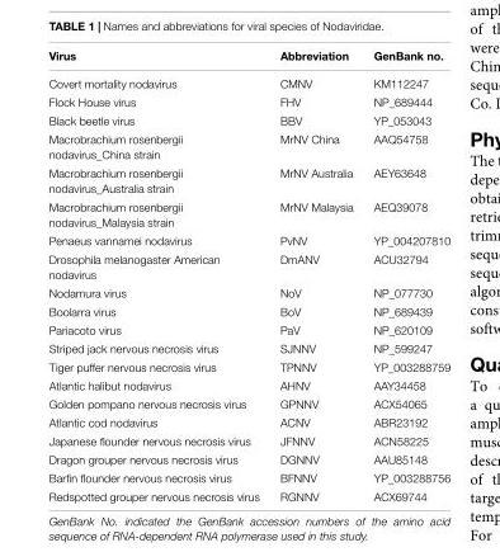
<table><thead><tr><td>Virus</td><td>Abbreviation</td><td>GenBank no.</td></tr></thead><tbody><tr><td>Covert mortality nodavirus</td><td>CMNV</td><td>KM112247</td></tr><tr><td>Flock House virus</td><td>FHV</td><td>NP_689444</td></tr><tr><td>Black beetle virus</td><td>BBV</td><td>YP_053043</td></tr><tr><td>Macrobrachium rosenbergii nodavirus_China strain</td><td>MrNV China</td><td>AAQ54758</td></tr><tr><td>Macrobrachium rosenbergii nodavirus_Australia strain</td><td>MrNV Australia</td><td>AEY63648</td></tr><tr><td>Macrobrachium rosenbergii nodavirus_Malaysia strain</td><td>MrNV Malaysia</td><td>AEQ39078</td></tr><tr><td>Penaeus vannamei nodavirus</td><td>PvNV</td><td>YP_004207810</td></tr><tr><td>Drosophila melanogaster American nodavirus</td><td>DmANV</td><td>ACU32794</td></tr><tr><td>Nodamura virus</td><td>NoV</td><td>NP_077730</td></tr><tr><td>Boolarra virus</td><td>BoV</td><td>NP_689439</td></tr><tr><td>Pariacoto virus</td><td>PaV</td><td>NP_620109</td></tr><tr><td>Striped jack nervous necrosis virus</td><td>SJNNV</td><td>NP_599247</td></tr><tr><td>Tiger puffer nervous necrosis virus</td><td>TPNNV</td><td>YP_003288759</td></tr><tr><td>Atlantic halibut nodavirus</td><td>AHNV</td><td>AAY34458</td></tr><tr><td>Golden pompano nervous necrosis virus</td><td>GPNNV</td><td>ACX54065</td></tr><tr><td>Atlantic cod nodavirus</td><td>ACNV</td><td>ABR23192</td></tr><tr><td>Japanese flounder nervous necrosis virus</td><td>JFNNV</td><td>ACN58225</td></tr><tr><td>Dragon grouper nervous necrosis virus</td><td>DGNNV</td><td>AAU85148</td></tr><tr><td>Barfin flounder nervous necrosis virus</td><td>BFNNV</td><td>YP_003288756</td></tr><tr><td>Redspotted grouper nervous necrosis virus</td><td>RGNNV</td><td>ACX69744</td></tr></tbody></table>